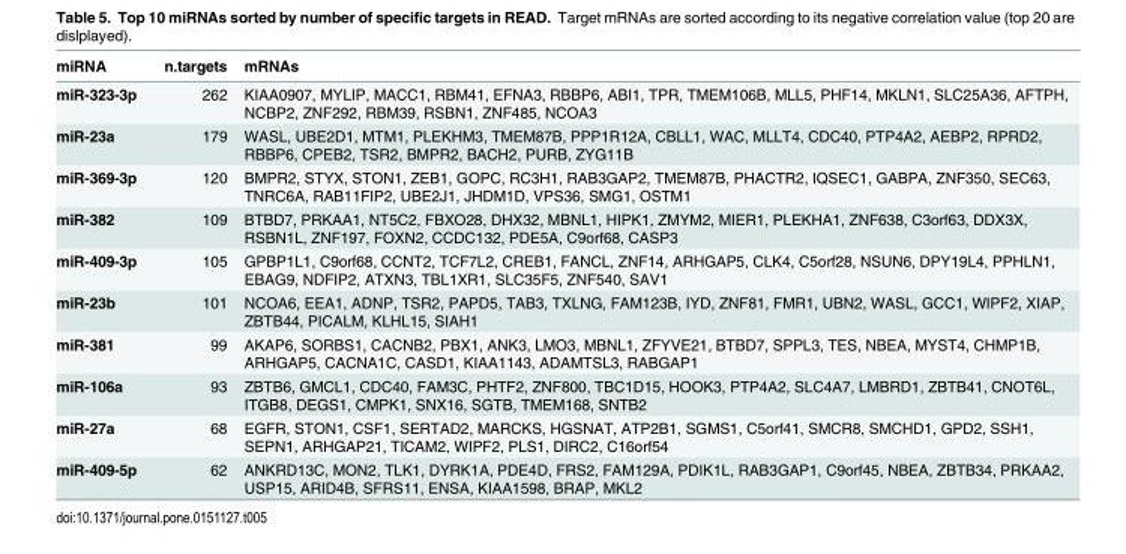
<table><thead><tr><td>miRNA</td><td>n.targets</td><td>mRNAs</td></tr></thead><tbody><tr><td>miR-323-3p</td><td>262</td><td>KIAA0907, MYLIP, MACC1, RBM41, EFNA3, RBBP6, ABI1, TPR, TMEM106B, MLL5, PHF14, MKLN1, SLC25A36, AFTPH, NCBP2, ZNF292, RBM39, RSBN1, ZNF485, NCOA3</td></tr><tr><td>miR-23a</td><td>179</td><td>WASL, UBE2D1, MTM1, PLEKHM3, TMEM87B, PPP1R12A, CBLL1, WAC, MLLT4, CDC40, PTP4A2, AEBP2, RPRD2, RBBP6, CPEB2, TSR2, BMPR2, BACH2, PURB, ZYG11B</td></tr><tr><td>miR-369-3p</td><td>120</td><td>BMPR2, STYX, STON1, ZEB1, GOPC, RC3H1, RAB3GAP2, TMEM87B, PHACTR2, IQSEC1, GABPA, ZNF350, SEC63, TNRC6A, RAB11FIP2, UBE2J1, JHDM1D, VPS36, SMG1, OSTM1</td></tr><tr><td>miR-382</td><td>109</td><td>BTBD7, PRKAA1, NT5C2, FBXO28, DHX32, MBNL1, HIPK1, ZMYM2, MIER1, PLEKHA1, ZNF638, C3orf63, DDX3X, RSBN1L, ZNF197, FOXN2, CCDC132, PDE5A, C9orf68, CASP3</td></tr><tr><td>miR-409-3p</td><td>105</td><td>GPBP1L1, C9orf68, CCNT2, TCF7L2, CREB1, FANCL, ZNF14, ARHGAP5, CLK4, C5orf28, NSUN6, DPY19L4, PPHLN1, EBAG9, NDFIP2, ATXN3, TBL1XR1, SLC35F5, ZNF540, SAV1</td></tr><tr><td>miR-23b</td><td>101</td><td>NCOA6, EEA1, ADNP, TSR2, PAPD5, TAB3, TXLNG, FAM123B, IYD, ZNF81, FMR1, UBN2, WASL, GCC1, WIPF2, XIAP, ZBTB44, PICALM, KLHL15, SIAH1</td></tr><tr><td>miR-381</td><td>99</td><td>AKAP6, SORBS1, CACNB2, PBX1, ANK3, LMO3, MBNL1, ZFYVE21, BTBD7, SPPL3, TES, NBEA, MYST4, CHMP1B, ARHGAP5, CACNA1C, CASD1, KIAA1143, ADAMTSL3, RABGAP1</td></tr><tr><td>miR-106a</td><td>93</td><td>ZBTB6, GMCL1, CDC40, FAM3C, PHTF2, ZNF800, TBC1D15, HOOK3, PTP4A2, SLC4A7, LMBRD1, ZBTB41, CNOT6L, ITGB8, DEGS1, CMPK1, SNX16, SGTB, TMEM168, SNTB2</td></tr><tr><td>miR-27a</td><td>68</td><td>EGFR, STON1, CSF1, SERTAD2, MARCKS, HGSNAT, ATP2B1, SGMS1, C5orf41, SMCR8, SMCHD1, GPD2, SSH1, SEPN1, ARHGAP21, TICAM2, WIPF2, PLS1, DIRC2, C16orf54</td></tr><tr><td>miR-409-5p</td><td>62</td><td>ANKRD13C, MON2, TLK1, DYRK1A, PDE4D, FRS2, FAM129A, PDIK1L, RAB3GAP1, C9orf45, NBEA, ZBTB34, PRKAA2, USP15, ARID4B, SFRS11, ENSA, KIAA1598, BRAP, MKL2</td></tr></tbody></table>